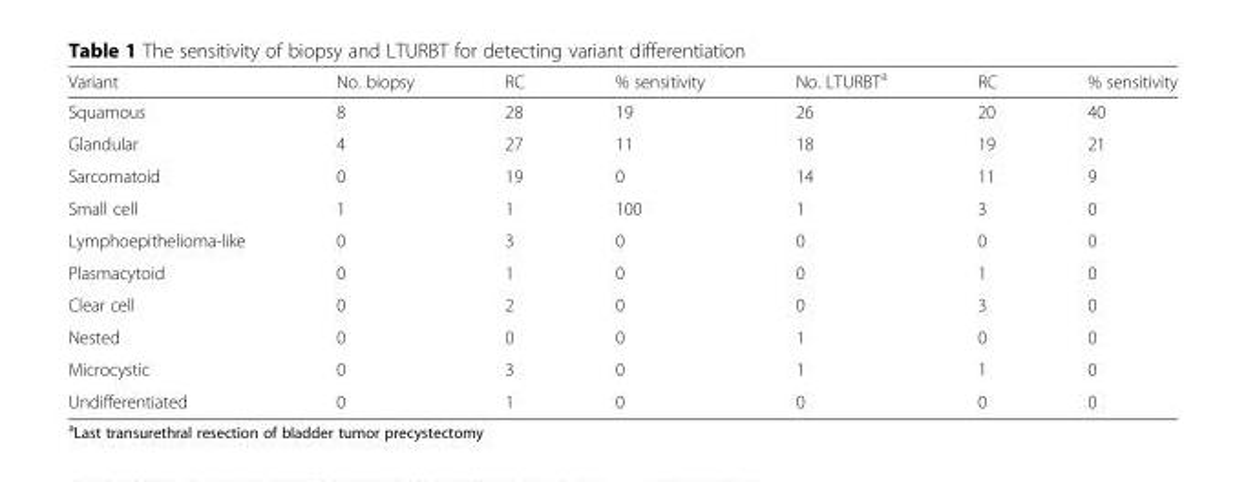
<table><thead><tr><td>Variant</td><td>No. biopsy</td><td>RC</td><td>% sensitivity</td><td>No. LTURBT<sup>a</sup></td><td>RC</td><td>% sensitivity</td></tr></thead><tbody><tr><td>Squamous</td><td>8</td><td>28</td><td>19</td><td>26</td><td>20</td><td>40</td></tr><tr><td>Glandular</td><td>4</td><td>27</td><td>11</td><td>18</td><td>19</td><td>21</td></tr><tr><td>Sarcomatoid</td><td>0</td><td>19</td><td>0</td><td>14</td><td>11</td><td>9</td></tr><tr><td>Small cell</td><td>1</td><td>1</td><td>100</td><td>1</td><td>3</td><td>0</td></tr><tr><td>Lymphoepithelioma-like</td><td>0</td><td>3</td><td>0</td><td>0</td><td>0</td><td>0</td></tr><tr><td>Plasmacytoid</td><td>0</td><td>1</td><td>0</td><td>0</td><td>1</td><td>0</td></tr><tr><td>Clear cell</td><td>0</td><td>2</td><td>0</td><td>0</td><td>3</td><td>0</td></tr><tr><td>Nested</td><td>0</td><td>0</td><td>0</td><td>1</td><td>0</td><td>0</td></tr><tr><td>Microcystic</td><td>0</td><td>3</td><td>0</td><td>1</td><td>1</td><td>0</td></tr><tr><td>Undifferentiated</td><td>0</td><td>1</td><td>0</td><td>0</td><td>0</td><td>0</td></tr></tbody></table>